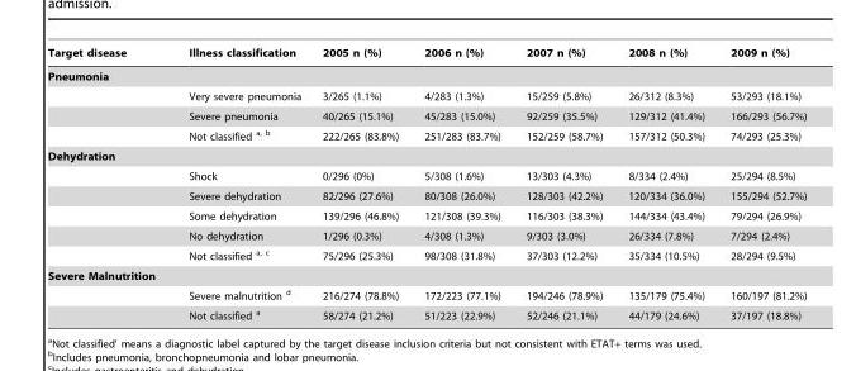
<table><thead><tr><td>Target disease</td><td>Illness classification</td><td>2005 n (%)</td><td>2006 n (%)</td><td>2007 n (%)</td><td>2008 n (%)</td><td>2009 n (%)</td></tr></thead><tbody><tr><td colspan="7">Pneumonia</td></tr><tr><td></td><td>Very severe pneumonia</td><td>3/265 (1.1%)</td><td>4/283 (1.3%)</td><td>15/259 (5.8%)</td><td>26/312 (8.3%)</td><td>53/293 (18.1%)</td></tr><tr><td></td><td>Severe pneumonia</td><td>40/265 (15.1%)</td><td>45/283 (15.0%)</td><td>92/259 (35.5%)</td><td>129/312 (41.4%)</td><td>166/293 (56.7%)</td></tr><tr><td></td><td>Not classified a, b</td><td>222/265 (83.8%)</td><td>251/283 (83.7%)</td><td>152/259 (58.7%)</td><td>157/312 (50.3%)</td><td>74/293 (25.3%)</td></tr><tr><td colspan="7">Dehydration</td></tr><tr><td></td><td>Shock</td><td>0/296 (0%)</td><td>5/308 (1.6%)</td><td>13/303 (4.3%)</td><td>8/334 (2.4%)</td><td>25/294 (8.5%)</td></tr><tr><td></td><td>Severe dehydration</td><td>82/296 (27.6%)</td><td>80/308 (26.0%)</td><td>128/303 (42.2%)</td><td>120/334 (36.0%)</td><td>155/294 (52.7%)</td></tr><tr><td></td><td>Some dehydration</td><td>139/296 (46.8%)</td><td>121/308 (39.3%)</td><td>116/303 (38.3%)</td><td>144/334 (43.4%)</td><td>79/294 (26.9%)</td></tr><tr><td></td><td>No dehydration</td><td>1/296 (0.3%)</td><td>4/308 (1.3%)</td><td>9/303 (3.0%)</td><td>26/334 (7.8%)</td><td>7/294 (2.4%)</td></tr><tr><td></td><td>Not classified a, c</td><td>75/296 (25.3%)</td><td>98/308 (31.8%)</td><td>37/303 (12.2%)</td><td>35/334 (10.5%)</td><td>28/294 (9.5%)</td></tr><tr><td colspan="7">Severe Malnutrition</td></tr><tr><td></td><td>Severe malnutrition d</td><td>216/274 (78.8%)</td><td>172/223 (77.1%)</td><td>194/246 (78.9%)</td><td>135/179 (75.4%)</td><td>160/197 (81.2%)</td></tr><tr><td></td><td>Not classified a</td><td>58/274 (21.2%)</td><td>51/223 (22.9%)</td><td>52/246 (21.1%)</td><td>44/179 (24.6%)</td><td>37/197 (18.8%)</td></tr></tbody></table>